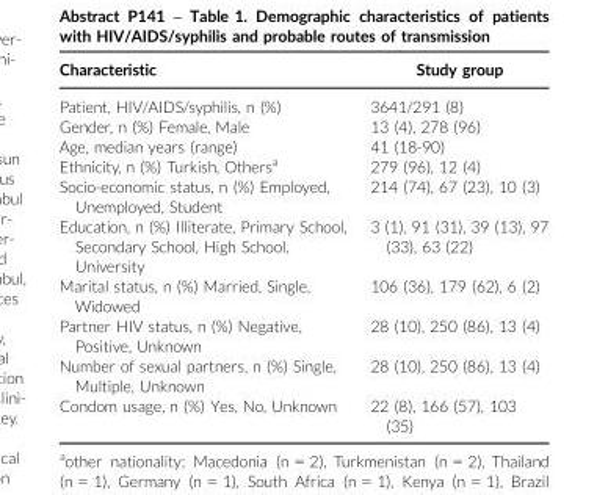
<table><thead><tr><td>Characteristic</td><td>Study group</td></tr></thead><tbody><tr><td>Patient, HIV/AIDS/syphilis, n (%)</td><td>3641/291 (8)</td></tr><tr><td>Gender, n (%) Female, Male</td><td>13 (4), 278 (96)</td></tr><tr><td>Age, median years (range)</td><td>41 (18-90)</td></tr><tr><td>Ethnicity, n (%) Turkish, Others<sup>a</sup></td><td>279 (96), 12 (4)</td></tr><tr><td>Socio-economic status, n (%) Employed, Unemployed, Student</td><td>214 (74), 67 (23), 10 (3)</td></tr><tr><td>Education, n (%) Illiterate, Primary School, Secondary School, High School, University</td><td>3 (1), 91 (31), 39 (13), 97 (33), 63 (22)</td></tr><tr><td>Marital status, n (%) Married, Single, Widowed</td><td>106 (36), 179 (62), 6 (2)</td></tr><tr><td>Partner HIV status, n (%) Negative, Positive, Unknown</td><td>28 (10), 250 (86), 13 (4)</td></tr><tr><td>Number of sexual partners, n (%) Single, Multiple, Unknown</td><td>28 (10), 250 (86), 13 (4)</td></tr><tr><td>Condom usage, n (%) Yes, No, Unknown</td><td>22 (8), 166 (57), 103 (35)</td></tr></tbody></table>